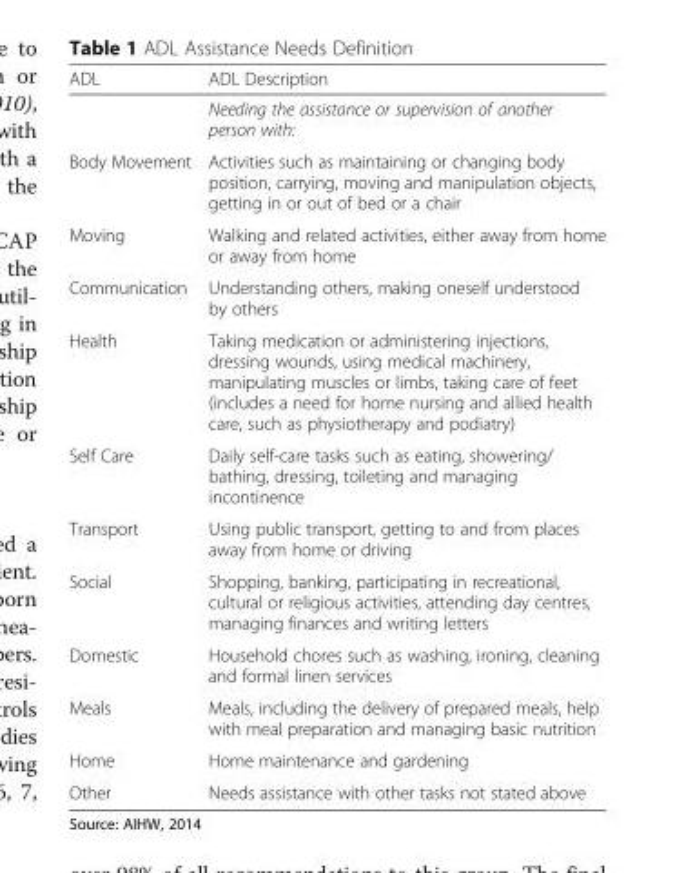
<table><thead><tr><td>ADL</td><td>ADL Description</td></tr></thead><tbody><tr><td></td><td>Needing the assistance or supervision of another person with:</td></tr><tr><td>Body Movement</td><td>Activities such as maintaining or changing body position, carrying, moving and manipulation objects, getting in or out of bed or a chair</td></tr><tr><td>Moving</td><td>Walking and related activities, either away from home or away from home</td></tr><tr><td>Communication</td><td>Understanding others, making oneself understood by others</td></tr><tr><td>Health</td><td>Taking medication or administering injections, dressing wounds, using medical machinery, manipulating muscles or limbs, taking care of feet (includes a need for home nursing and allied health care, such as physiotherapy and podiatry)</td></tr><tr><td>Self Care</td><td>Daily self-care tasks such as eating, showering/ bathing, dressing, toileting and managing incontinence</td></tr><tr><td>Transport</td><td>Using public transport, getting to and from places away from home or driving</td></tr><tr><td>Social</td><td>Shopping, banking, participating in recreational, cultural or religious activities, attending day centres, managing finances and writing letters</td></tr><tr><td>Domestic</td><td>Household chores such as washing, ironing, cleaning and formal linen services</td></tr><tr><td>Meals</td><td>Meals, including the delivery of prepared meals, help with meal preparation and managing basic nutrition</td></tr><tr><td>Home</td><td>Home maintenance and gardening</td></tr><tr><td>Other</td><td>Needs assistance with other tasks not stated above</td></tr></tbody></table>